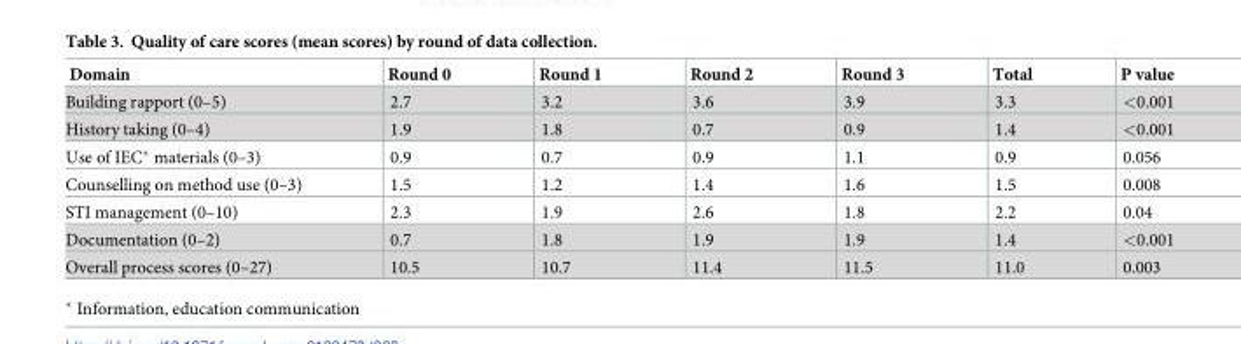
<table><thead><tr><td>Domain</td><td>Round 0</td><td>Round 1</td><td>Round 2</td><td>Round 3</td><td>Total</td><td>P value</td></tr></thead><tbody><tr><td>Building rapport (0–5)</td><td>2.7</td><td>3.2</td><td>3.6</td><td>3.9</td><td>3.3</td><td>&lt;0.001</td></tr><tr><td>History taking (0–4)</td><td>1.9</td><td>1.8</td><td>0.7</td><td>0.9</td><td>1.4</td><td>&lt;0.001</td></tr><tr><td>Use of IEC* materials (0–3)</td><td>0.9</td><td>0.7</td><td>0.9</td><td>1.1</td><td>0.9</td><td>0.056</td></tr><tr><td>Counselling on method use (0–3)</td><td>1.5</td><td>1.2</td><td>1.4</td><td>1.6</td><td>1.5</td><td>0.008</td></tr><tr><td>STI management (0–10)</td><td>2.3</td><td>1.9</td><td>2.6</td><td>1.8</td><td>2.2</td><td>0.04</td></tr><tr><td>Documentation (0–2)</td><td>0.7</td><td>1.8</td><td>1.9</td><td>1.9</td><td>1.4</td><td>&lt;0.001</td></tr><tr><td>Overall process scores (0–27)</td><td>10.5</td><td>10.7</td><td>11.4</td><td>11.5</td><td>11.0</td><td>0.003</td></tr></tbody></table>